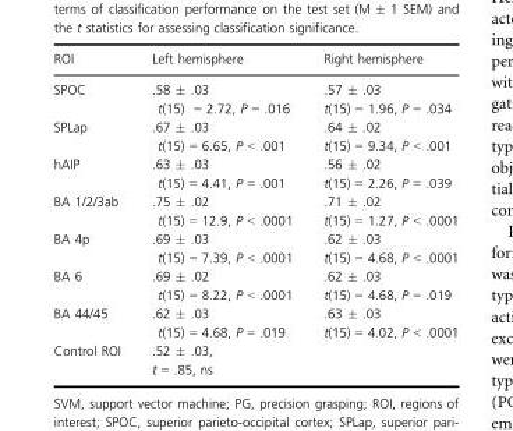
<table><thead><tr><td>ROI</td><td>Left hemisphere</td><td>Right hemisphere</td></tr></thead><tbody><tr><td>SPOC</td><td>.58 ± .03 t(15) = 2.72, P = .016</td><td>.57 ± .03 t(15) = 1.96, P = .034</td></tr><tr><td>SPLap</td><td>.67 ± .03 t(15) = 6.65, P &lt; .001</td><td>.64 ± .02 t(15) = 9.34, P &lt; .001</td></tr><tr><td>hAIP</td><td>.63 ± .03 t(15) = 4.41, P = .001</td><td>.56 ± .02 t(15) = 2.26, P = .039</td></tr><tr><td>BA 1/2/3ab</td><td>.75 ± .02 t(15) = 12.9, P &lt; .0001</td><td>.71 ± .02 t(15) = 1.27, P &lt; .0001</td></tr><tr><td>BA 4p</td><td>.69 ± .03 t(15) = 7.39, P &lt; .0001</td><td>.62 ± .03 t(15) = 4.68, P &lt; .0001</td></tr><tr><td>BA 6</td><td>.69 ± .02 t(15) = 8.22, P &lt; .0001</td><td>.62 ± .03 t(15) = 4.68, P = .019</td></tr><tr><td>BA 44/45</td><td>.62 ± .03 t(15) = 4.68, P = .019</td><td>.63 ± .03 t(15) = 4.02, P &lt; .0001</td></tr><tr><td>Control ROI</td><td colspan="2">.52 ± .03, t = .85, ns</td></tr></tbody></table>